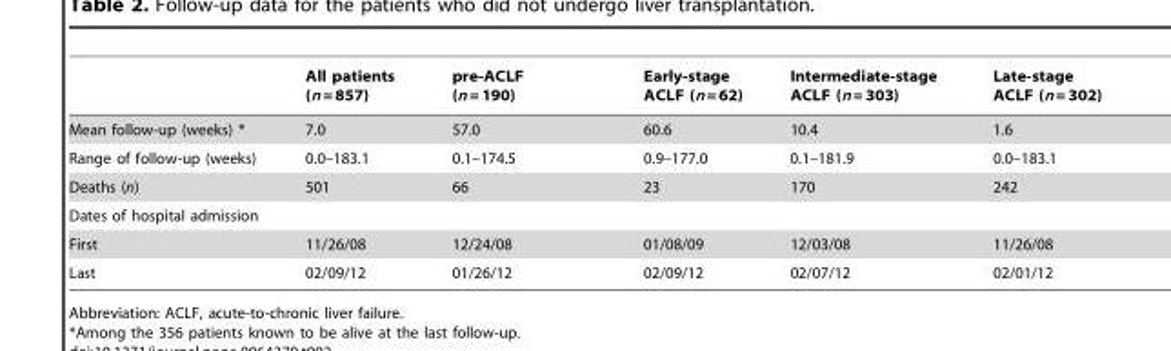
<table><thead><tr><td></td><td>All patients (n = 857)</td><td>pre-ACLF (n = 190)</td><td>Early-stage ACLF (n = 62)</td><td>Intermediate-stage ACLF (n = 303)</td><td>Late-stage ACLF (n = 302)</td></tr></thead><tbody><tr><td>Mean follow-up (weeks) *</td><td>7.0</td><td>57.0</td><td>60.6</td><td>10.4</td><td>1.6</td></tr><tr><td>Range of follow-up (weeks)</td><td>0.0–183.1</td><td>0.1–174.5</td><td>0.9–177.0</td><td>0.1–181.9</td><td>0.0–183.1</td></tr><tr><td>Deaths (n)</td><td>501</td><td>66</td><td>23</td><td>170</td><td>242</td></tr><tr><td colspan="6">Dates of hospital admission</td></tr><tr><td>First</td><td>11/26/08</td><td>12/24/08</td><td>01/08/09</td><td>12/03/08</td><td>11/26/08</td></tr><tr><td>Last</td><td>02/09/12</td><td>01/26/12</td><td>02/09/12</td><td>02/07/12</td><td>02/01/12</td></tr></tbody></table>